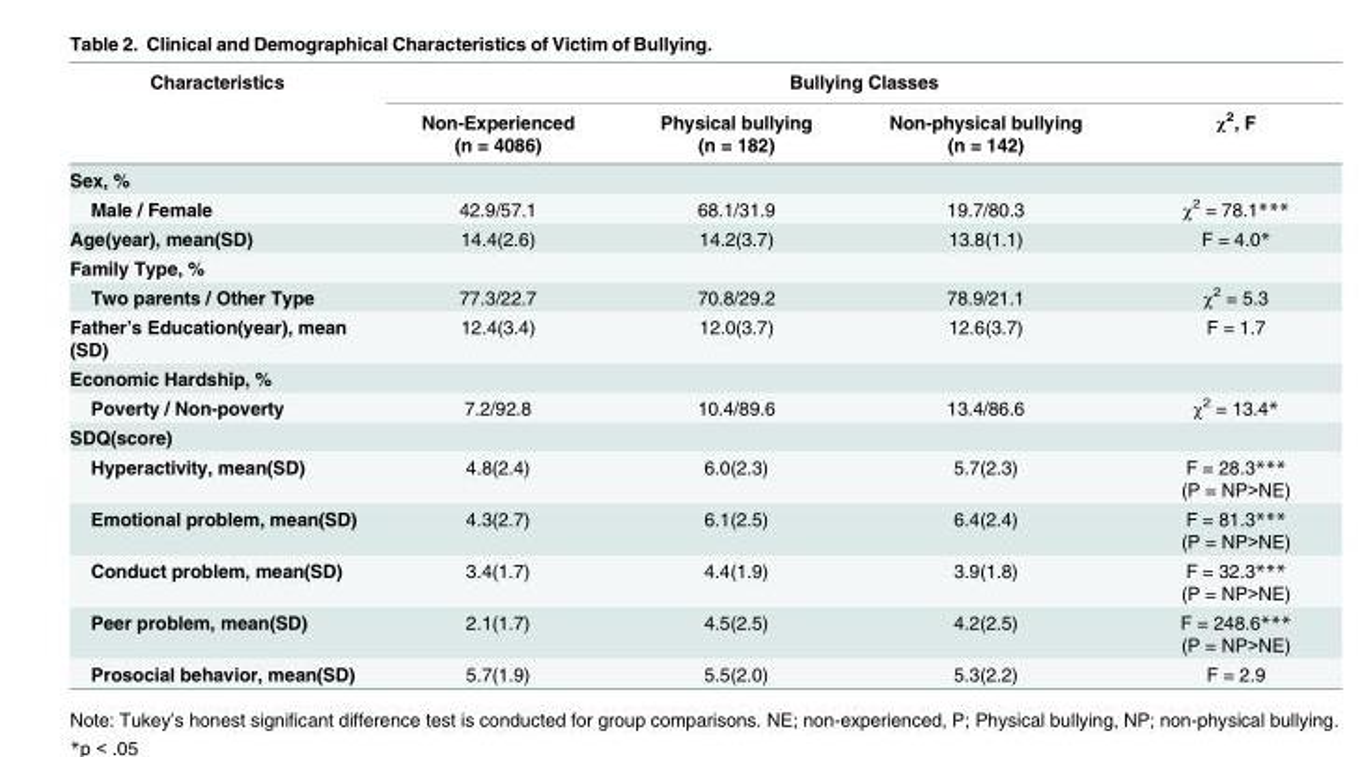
<table><thead><tr><td rowspan="2">Characteristics</td><td colspan="4">Bullying Classes</td></tr><tr><td>Non-Experienced (n = 4086)</td><td>Physical bullying (n = 182)</td><td>Non-physical bullying (n = 142)</td><td>χ<sup>2</sup>, F</td></tr></thead><tbody><tr><td colspan="5">Sex, %</td></tr><tr><td>Male / Female</td><td>42.9/57.1</td><td>68.1/31.9</td><td>19.7/80.3</td><td>χ<sup>2</sup> = 78.1***</td></tr><tr><td>Age(year), mean(SD)</td><td>14.4(2.6)</td><td>14.2(3.7)</td><td>13.8(1.1)</td><td>F = 4.0*</td></tr><tr><td colspan="5">Family Type, %</td></tr><tr><td>Two parents / Other Type</td><td>77.3/22.7</td><td>70.8/29.2</td><td>78.9/21.1</td><td>χ<sup>2</sup> = 5.3</td></tr><tr><td>Father’s Education(year), mean (SD)</td><td>12.4(3.4)</td><td>12.0(3.7)</td><td>12.6(3.7)</td><td>F = 1.7</td></tr><tr><td colspan="5">Economic Hardship, %</td></tr><tr><td>Poverty / Non-poverty</td><td>7.2/92.8</td><td>10.4/89.6</td><td>13.4/86.6</td><td>χ<sup>2</sup> = 13.4*</td></tr><tr><td colspan="5">SDQ(score)</td></tr><tr><td>Hyperactivity, mean(SD)</td><td>4.8(2.4)</td><td>6.0(2.3)</td><td>5.7(2.3)</td><td>F = 28.3*** (P = NP&gt;NE)</td></tr><tr><td>Emotional problem, mean(SD)</td><td>4.3(2.7)</td><td>6.1(2.5)</td><td>6.4(2.4)</td><td>F = 81.3*** (P = NP&gt;NE)</td></tr><tr><td>Conduct problem, mean(SD)</td><td>3.4(1.7)</td><td>4.4(1.9)</td><td>3.9(1.8)</td><td>F = 32.3*** (P = NP&gt;NE)</td></tr><tr><td>Peer problem, mean(SD)</td><td>2.1(1.7)</td><td>4.5(2.5)</td><td>4.2(2.5)</td><td>F = 248.6*** (P = NP&gt;NE)</td></tr><tr><td>Prosocial behavior, mean(SD)</td><td>5.7(1.9)</td><td>5.5(2.0)</td><td>5.3(2.2)</td><td>F = 2.9</td></tr></tbody></table>